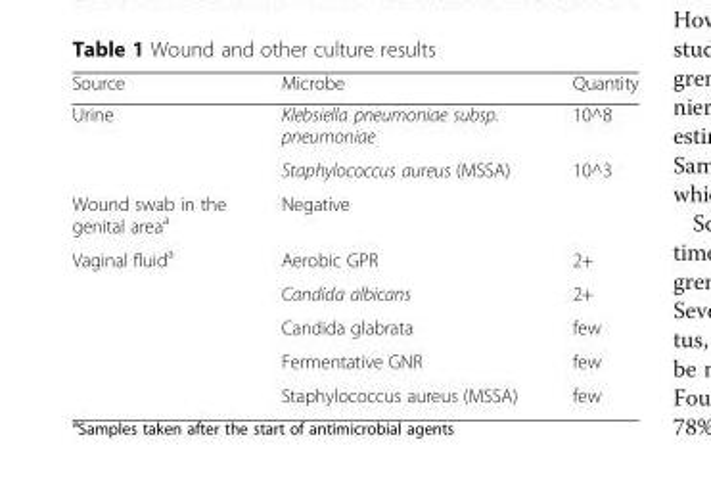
<table><thead><tr><td>Source</td><td>Microbe</td><td>Quantity</td></tr></thead><tbody><tr><td rowspan="2">Urine</td><td>Klebsiella pneumoniae subsp. pneumoniae</td><td>10^8</td></tr><tr><td>Staphylococcus aureus (MSSA)</td><td>10^3</td></tr><tr><td>Wound swab in the genital area<sup>a</sup></td><td>Negative</td><td></td></tr><tr><td rowspan="5">Vaginal fluid<sup>a</sup></td><td>Aerobic GPR</td><td>2+</td></tr><tr><td>Candida albicans</td><td>2+</td></tr><tr><td>Candida glabrata</td><td>few</td></tr><tr><td>Fermentative GNR</td><td>few</td></tr><tr><td>Staphylococcus aureus (MSSA)</td><td>few</td></tr></tbody></table>